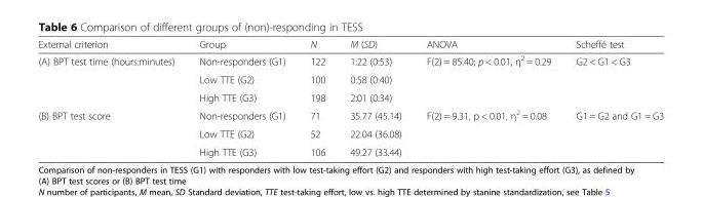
<table><thead><tr><td>External criterion</td><td>Group</td><td>N</td><td>M (SD)</td><td>ANOVA</td><td>Scheffé test</td></tr></thead><tbody><tr><td rowspan="3">(A) BPT test time (hours:minutes)</td><td>Non-responders (G1)</td><td>122</td><td>1:22 (0:53)</td><td>F(2) = 85.40; p &lt; 0.01, η<sup>2</sup> = 0.29</td><td>G2 &lt; G1 &lt; G3</td></tr><tr><td>Low TTE (G2)</td><td>100</td><td>0:58 (0:40)</td><td></td><td></td></tr><tr><td>High TTE (G3)</td><td>198</td><td>2:01 (0:34)</td><td></td><td></td></tr><tr><td rowspan="3">(B) BPT test score</td><td>Non-responders (G1)</td><td>71</td><td>35.77 (45.14)</td><td>F(2) = 9.31, p &lt; 0.01, η<sup>2</sup> = 0.08</td><td>G1 = G2 and G1 = G3</td></tr><tr><td>Low TTE (G2)</td><td>52</td><td>22.04 (36.08)</td><td></td><td></td></tr><tr><td>High TTE (G3)</td><td>106</td><td>49.27 (33.44)</td><td></td><td></td></tr></tbody></table>